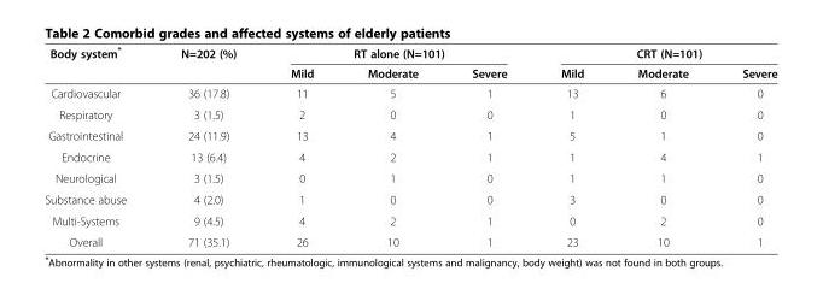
<table><thead><tr><td rowspan="2">Body system*</td><td rowspan="2">N=202 (%)</td><td colspan="3">RT alone (N=101)</td><td colspan="3">CRT (N=101)</td></tr><tr><td>Mild</td><td>Moderate</td><td>Severe</td><td>Mild</td><td>Moderate</td><td>Severe</td></tr></thead><tbody><tr><td>Cardiovascular</td><td>36 (17.8)</td><td>11</td><td>5</td><td>1</td><td>13</td><td>6</td><td>0</td></tr><tr><td>Respiratory</td><td>3 (1.5)</td><td>2</td><td>0</td><td>0</td><td>1</td><td>0</td><td>0</td></tr><tr><td>Gastrointestinal</td><td>24 (11.9)</td><td>13</td><td>4</td><td>1</td><td>5</td><td>1</td><td>0</td></tr><tr><td>Endocrine</td><td>13 (6.4)</td><td>4</td><td>2</td><td>1</td><td>1</td><td>4</td><td>1</td></tr><tr><td>Neurological</td><td>3 (1.5)</td><td>0</td><td>1</td><td>0</td><td>1</td><td>1</td><td>0</td></tr><tr><td>Substance abuse</td><td>4 (2.0)</td><td>1</td><td>0</td><td>0</td><td>3</td><td>0</td><td>0</td></tr><tr><td>Multi-Systems</td><td>9 (4.5)</td><td>4</td><td>2</td><td>1</td><td>0</td><td>2</td><td>0</td></tr><tr><td>Overall</td><td>71 (35.1)</td><td>26</td><td>10</td><td>1</td><td>23</td><td>10</td><td>1</td></tr></tbody></table>